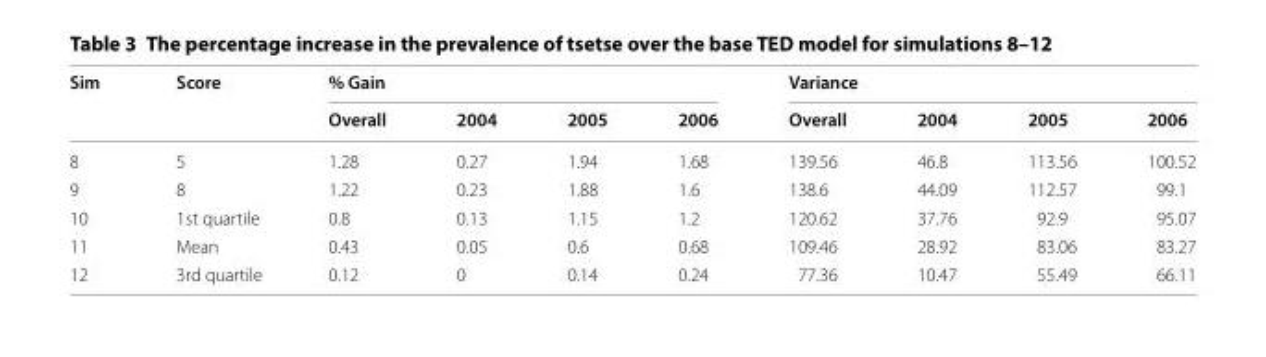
<table><thead><tr><td rowspan="2">Sim</td><td rowspan="2">Score</td><td colspan="4">% Gain</td><td colspan="4">Variance</td></tr><tr><td>Overall</td><td>2004</td><td>2005</td><td>2006</td><td>Overall</td><td>2004</td><td>2005</td><td>2006</td></tr></thead><tbody><tr><td>8</td><td>5</td><td>1.28</td><td>0.27</td><td>1.94</td><td>1.68</td><td>139.56</td><td>46.8</td><td>113.56</td><td>100.52</td></tr><tr><td>9</td><td>8</td><td>1.22</td><td>0.23</td><td>1.88</td><td>1.6</td><td>138.6</td><td>44.09</td><td>112.57</td><td>99.1</td></tr><tr><td>10</td><td>1st quartile</td><td>0.8</td><td>0.13</td><td>1.15</td><td>1.2</td><td>120.62</td><td>37.76</td><td>92.9</td><td>95.07</td></tr><tr><td>11</td><td>Mean</td><td>0.43</td><td>0.05</td><td>0.6</td><td>0.68</td><td>109.46</td><td>28.92</td><td>83.06</td><td>83.27</td></tr><tr><td>12</td><td>3rd quartile</td><td>0.12</td><td>0</td><td>0.14</td><td>0.24</td><td>77.36</td><td>10.47</td><td>55.49</td><td>66.11</td></tr></tbody></table>